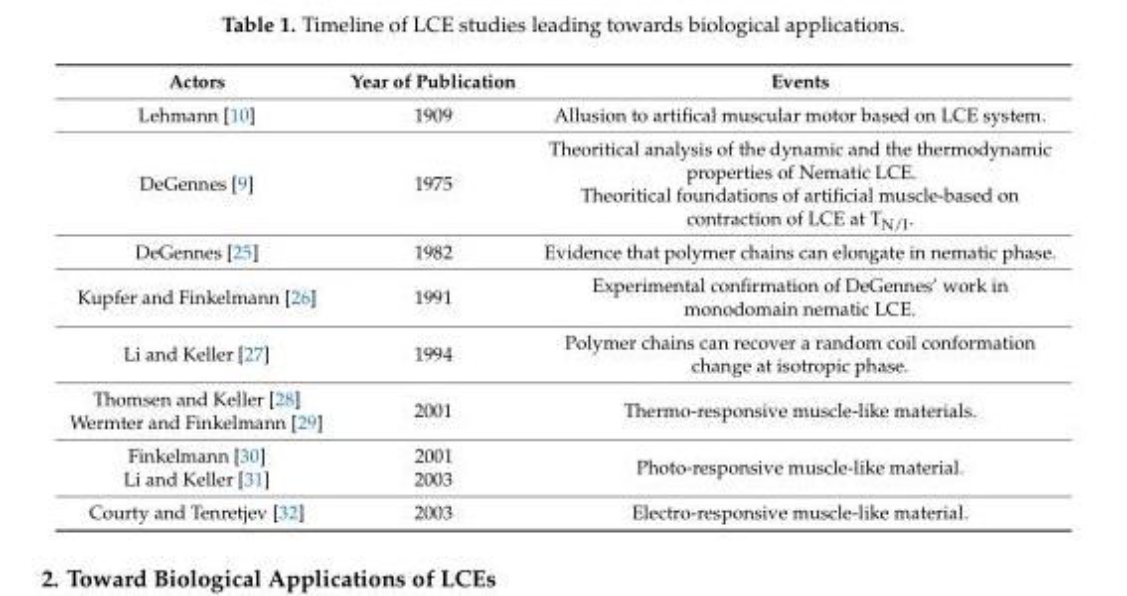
<table><thead><tr><td>Actors</td><td>Year of Publication</td><td>Events</td></tr></thead><tbody><tr><td>Lehmann [10]</td><td>1909</td><td>Allusion to artifical muscular motor based on LCE system.</td></tr><tr><td>DeGennes [9]</td><td>1975</td><td>Theoritical analysis of the dynamic and the thermodynamic properties of Nematic LCE. Theoritical foundations of artificial muscle-based on contraction of LCE at T<sub>N/I</sub>.</td></tr><tr><td>DeGennes [25]</td><td>1982</td><td>Evidence that polymer chains can elongate in nematic phase.</td></tr><tr><td>Kupfer and Finkelmann [26]</td><td>1991</td><td>Experimental confirmation of DeGennes’ work in monodomain nematic LCE.</td></tr><tr><td>Li and Keller [27]</td><td>1994</td><td>Polymer chains can recover a random coil conformation change at isotropic phase.</td></tr><tr><td>Thomsen and Keller [28] Wermter and Finkelmann [29]</td><td>2001</td><td>Thermo-responsive muscle-like materials.</td></tr><tr><td>Finkelmann [30] Li and Keller [31]</td><td>2001 2003</td><td>Photo-responsive muscle-like material.</td></tr><tr><td>Courty and Tenretjev [32]</td><td>2003</td><td>Electro-responsive muscle-like material.</td></tr></tbody></table>